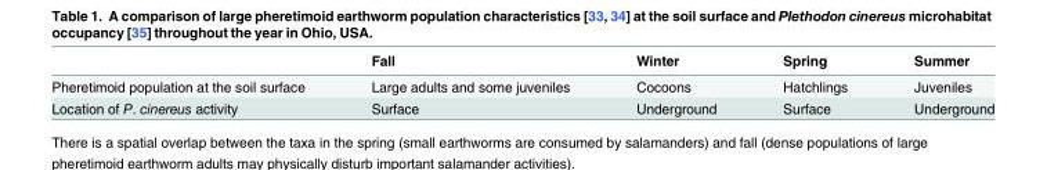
<table><thead><tr><td></td><td>Fall</td><td>Winter</td><td>Spring</td><td>Summer</td></tr></thead><tbody><tr><td>Pheretimoid population at the soil surface</td><td>Large adults and some juveniles</td><td>Cocoons</td><td>Hatchlings</td><td>Juveniles</td></tr><tr><td>Location of P. cinereus activity</td><td>Surface</td><td>Underground</td><td>Surface</td><td>Underground</td></tr></tbody></table>